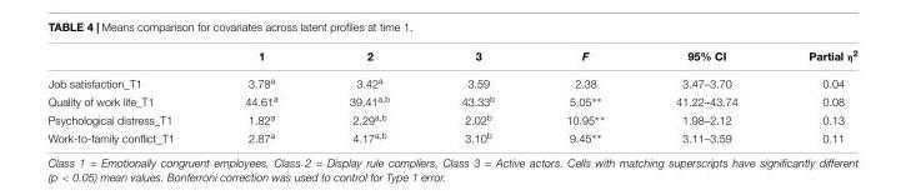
<table><thead><tr><td></td><td>1</td><td>2</td><td>3</td><td>F</td><td>95% CI</td><td>Partial η<sup>2</sup></td></tr></thead><tbody><tr><td>Job satisfaction_T1</td><td>3.78<sup>a</sup></td><td>3.42<sup>a</sup></td><td>3.59</td><td>2.38</td><td>3.47–3.70</td><td>0.04</td></tr><tr><td>Quality of work life_T1</td><td>44.61<sup>a</sup></td><td>39.41<sup>a,b</sup></td><td>43.33<sup>b</sup></td><td>5.05∗∗</td><td>41.22–43.74</td><td>0.08</td></tr><tr><td>Psychological distress_T1</td><td>1.82<sup>a</sup></td><td>2.29<sup>a,b</sup></td><td>2.02<sup>b</sup></td><td>10.95∗∗</td><td>1.98–2.12</td><td>0.13</td></tr><tr><td>Work-to-family conflict_T1</td><td>2.87<sup>a</sup></td><td>4.17<sup>a,b</sup></td><td>3.10<sup>b</sup></td><td>9.45∗∗</td><td>3.11–3.59</td><td>0.11</td></tr></tbody></table>